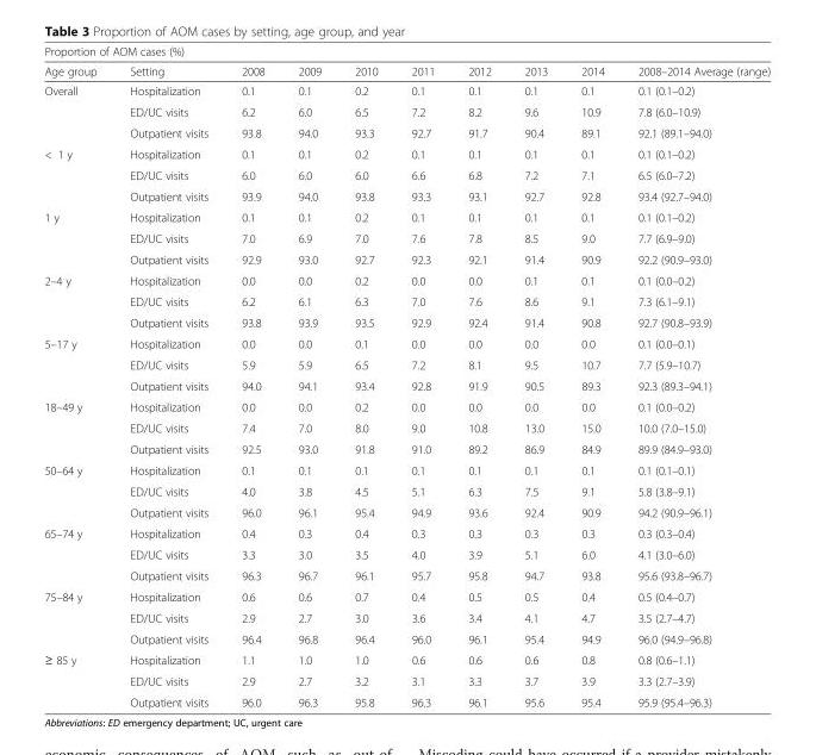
<table><thead><tr><td colspan="10">Proportion of AOM cases (%)</td></tr><tr><td>Age group</td><td>Setting</td><td>2008</td><td>2009</td><td>2010</td><td>2011</td><td>2012</td><td>2013</td><td>2014</td><td>2008–2014 Average (range)</td></tr></thead><tbody><tr><td rowspan="3">Overall</td><td>Hospitalization</td><td>0.1</td><td>0.1</td><td>0.2</td><td>0.1</td><td>0.1</td><td>0.1</td><td>0.1</td><td>0.1 (0.1–0.2)</td></tr><tr><td>ED/UC visits</td><td>6.2</td><td>6.0</td><td>6.5</td><td>7.2</td><td>8.2</td><td>9.6</td><td>10.9</td><td>7.8 (6.0–10.9)</td></tr><tr><td>Outpatient visits</td><td>93.8</td><td>94.0</td><td>93.3</td><td>92.7</td><td>91.7</td><td>90.4</td><td>89.1</td><td>92.1 (89.1–94.0)</td></tr><tr><td rowspan="3">&lt; 1 y</td><td>Hospitalization</td><td>0.1</td><td>0.1</td><td>0.2</td><td>0.1</td><td>0.1</td><td>0.1</td><td>0.1</td><td>0.1 (0.1–0.2)</td></tr><tr><td>ED/UC visits</td><td>6.0</td><td>6.0</td><td>6.0</td><td>6.6</td><td>6.8</td><td>7.2</td><td>7.1</td><td>6.5 (6.0–7.2)</td></tr><tr><td>Outpatient visits</td><td>93.9</td><td>94.0</td><td>93.8</td><td>93.3</td><td>93.1</td><td>92.7</td><td>92.8</td><td>93.4 (92.7–94.0)</td></tr><tr><td rowspan="3">1 y</td><td>Hospitalization</td><td>0.1</td><td>0.1</td><td>0.2</td><td>0.1</td><td>0.1</td><td>0.1</td><td>0.1</td><td>0.1 (0.1–0.2)</td></tr><tr><td>ED/UC visits</td><td>7.0</td><td>6.9</td><td>7.0</td><td>7.6</td><td>7.8</td><td>8.5</td><td>9.0</td><td>7.7 (6.9–9.0)</td></tr><tr><td>Outpatient visits</td><td>92.9</td><td>93.0</td><td>92.7</td><td>92.3</td><td>92.1</td><td>91.4</td><td>90.9</td><td>92.2 (90.9–93.0)</td></tr><tr><td rowspan="3">2–4 y</td><td>Hospitalization</td><td>0.0</td><td>0.0</td><td>0.2</td><td>0.0</td><td>0.0</td><td>0.1</td><td>0.1</td><td>0.1 (0.0–0.2)</td></tr><tr><td>ED/UC visits</td><td>6.2</td><td>6.1</td><td>6.3</td><td>7.0</td><td>7.6</td><td>8.6</td><td>9.1</td><td>7.3 (6.1–9.1)</td></tr><tr><td>Outpatient visits</td><td>93.8</td><td>93.9</td><td>93.5</td><td>92.9</td><td>92.4</td><td>91.4</td><td>90.8</td><td>92.7 (90.8–93.9)</td></tr><tr><td rowspan="3">5–17 y</td><td>Hospitalization</td><td>0.0</td><td>0.0</td><td>0.1</td><td>0.0</td><td>0.0</td><td>0.0</td><td>0.0</td><td>0.1 (0.0–0.1)</td></tr><tr><td>ED/UC visits</td><td>5.9</td><td>5.9</td><td>6.5</td><td>7.2</td><td>8.1</td><td>9.5</td><td>10.7</td><td>7.7 (5.9–10.7)</td></tr><tr><td>Outpatient visits</td><td>94.0</td><td>94.1</td><td>93.4</td><td>92.8</td><td>91.9</td><td>90.5</td><td>89.3</td><td>92.3 (89.3–94.1)</td></tr><tr><td rowspan="3">18–49 y</td><td>Hospitalization</td><td>0.0</td><td>0.0</td><td>0.2</td><td>0.0</td><td>0.0</td><td>0.0</td><td>0.0</td><td>0.1 (0.0–0.2)</td></tr><tr><td>ED/UC visits</td><td>7.4</td><td>7.0</td><td>8.0</td><td>9.0</td><td>10.8</td><td>13.0</td><td>15.0</td><td>10.0 (7.0–15.0)</td></tr><tr><td>Outpatient visits</td><td>92.5</td><td>93.0</td><td>91.8</td><td>91.0</td><td>89.2</td><td>86.9</td><td>84.9</td><td>89.9 (84.9–93.0)</td></tr><tr><td rowspan="3">50–64 y</td><td>Hospitalization</td><td>0.1</td><td>0.1</td><td>0.1</td><td>0.1</td><td>0.1</td><td>0.1</td><td>0.1</td><td>0.1 (0.1–0.1)</td></tr><tr><td>ED/UC visits</td><td>4.0</td><td>3.8</td><td>4.5</td><td>5.1</td><td>6.3</td><td>7.5</td><td>9.1</td><td>5.8 (3.8–9.1)</td></tr><tr><td>Outpatient visits</td><td>96.0</td><td>96.1</td><td>95.4</td><td>94.9</td><td>93.6</td><td>92.4</td><td>90.9</td><td>94.2 (90.9–96.1)</td></tr><tr><td rowspan="3">65–74 y</td><td>Hospitalization</td><td>0.4</td><td>0.3</td><td>0.4</td><td>0.3</td><td>0.3</td><td>0.3</td><td>0.3</td><td>0.3 (0.3–0.4)</td></tr><tr><td>ED/UC visits</td><td>3.3</td><td>3.0</td><td>3.5</td><td>4.0</td><td>3.9</td><td>5.1</td><td>6.0</td><td>4.1 (3.0–6.0)</td></tr><tr><td>Outpatient visits</td><td>96.3</td><td>96.7</td><td>96.1</td><td>95.7</td><td>95.8</td><td>94.7</td><td>93.8</td><td>95.6 (93.8–96.7)</td></tr><tr><td rowspan="3">75–84 y</td><td>Hospitalization</td><td>0.6</td><td>0.6</td><td>0.7</td><td>0.4</td><td>0.5</td><td>0.5</td><td>0.4</td><td>0.5 (0.4–0.7)</td></tr><tr><td>ED/UC visits</td><td>2.9</td><td>2.7</td><td>3.0</td><td>3.6</td><td>3.4</td><td>4.1</td><td>4.7</td><td>3.5 (2.7–4.7)</td></tr><tr><td>Outpatient visits</td><td>96.4</td><td>96.8</td><td>96.4</td><td>96.0</td><td>96.1</td><td>95.4</td><td>94.9</td><td>96.0 (94.9–96.8)</td></tr><tr><td rowspan="3">≥ 85 y</td><td>Hospitalization</td><td>1.1</td><td>1.0</td><td>1.0</td><td>0.6</td><td>0.6</td><td>0.6</td><td>0.8</td><td>0.8 (0.6–1.1)</td></tr><tr><td>ED/UC visits</td><td>2.9</td><td>2.7</td><td>3.2</td><td>3.1</td><td>3.3</td><td>3.7</td><td>3.9</td><td>3.3 (2.7–3.9)</td></tr><tr><td>Outpatient visits</td><td>96.0</td><td>96.3</td><td>95.8</td><td>96.3</td><td>96.1</td><td>95.6</td><td>95.4</td><td>95.9 (95.4–96.3)</td></tr></tbody></table>